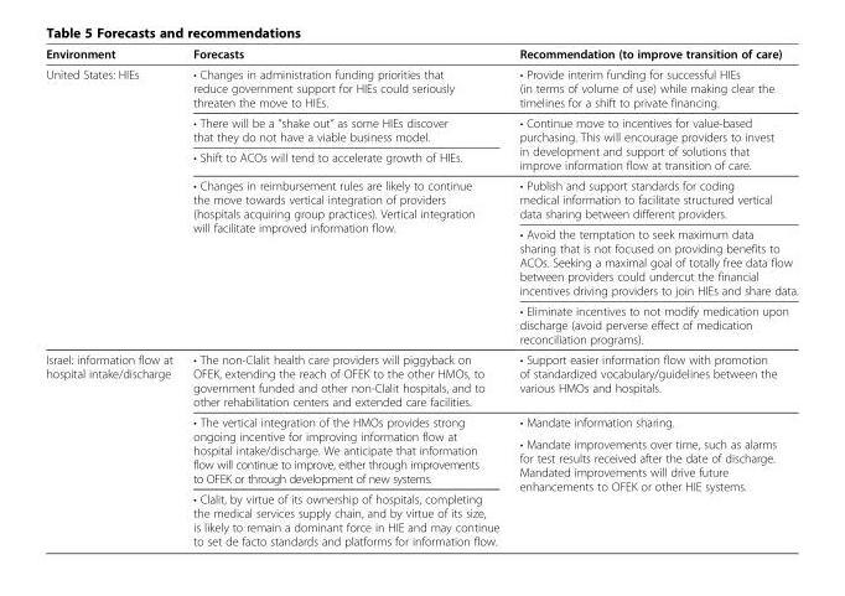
<table><thead><tr><td>Environment</td><td>Forecasts</td><td>Recommendation (to improve transition of care)</td></tr></thead><tbody><tr><td rowspan="6">United States: HIEs</td><td>• Changes in administration funding priorities that reduce government support for HIEs could seriously threaten the move to HIEs.</td><td>• Provide interim funding for successful HIEs (in terms of volume of use) while making clear the timelines for a shift to private financing.</td></tr><tr><td>• There will be a “shake out” as some HIEs discover that they do not have a viable business model.</td><td rowspan="2">• Continue move to incentives for value-based purchasing. This will encourage providers to invest in development and support of solutions that improve information flow at transition of care.</td></tr><tr><td>• Shift to ACOs will tend to accelerate growth of HIEs.</td></tr><tr><td rowspan="3">• Changes in reimbursement rules are likely to continue the move towards vertical integration of providers (hospitals acquiring group practices). Vertical integration will facilitate improved information flow.</td><td>• Publish and support standards for coding medical information to facilitate structured vertical data sharing between different providers.</td></tr><tr><td>• Avoid the temptation to seek maximum data sharing that is not focused on providing benefits to ACOs. Seeking a maximal goal of totally free data flow between providers could undercut the financial incentives driving providers to join HIEs and share data.</td></tr><tr><td>• Eliminate incentives to not modify medication upon discharge (avoid perverse effect of medication reconciliation programs).</td></tr><tr><td rowspan="4">Israel: information flow at hospital intake/discharge</td><td>• The non-Clalit health care providers will piggyback on OFEK, extending the reach of OFEK to the other HMOs, to government funded and other non-Clalit hospitals, and to other rehabilitation centers and extended care facilities.</td><td>• Support easier information flow with promotion of standardized vocabulary/guidelines between the various HMOs and hospitals.</td></tr><tr><td rowspan="2">• The vertical integration of the HMOs provides strong ongoing incentive for improving information flow at hospital intake/discharge. We anticipate that information flow will continue to improve, either through improvements to OFEK or through development of new systems.</td><td>• Mandate information sharing.</td></tr><tr><td rowspan="2">• Mandate improvements over time, such as alarms for test results received after the date of discharge. Mandated improvements will drive future enhancements to OFEK or other HIE systems.</td></tr><tr><td>• Clalit, by virtue of its ownership of hospitals, completing the medical services supply chain, and by virtue of its size, is likely to remain a dominant force in HIE and may continue to set de facto standards and platforms for information flow.</td></tr></tbody></table>